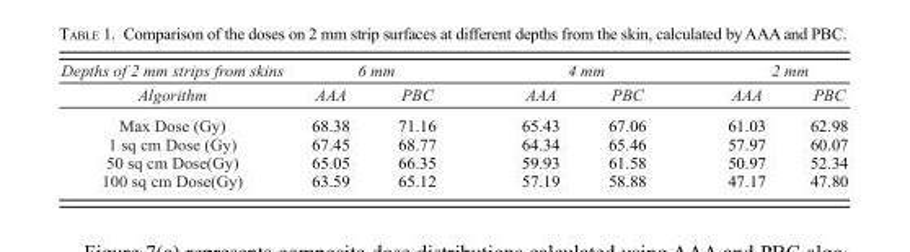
<table><thead><tr><td rowspan="2">Depths of 2 mm strips from skins Algorithm</td><td colspan="2">6 mm</td><td colspan="2">4 mm</td><td colspan="2">2 mm</td></tr><tr><td>AAA</td><td>PBC</td><td>AAA</td><td>PBC</td><td>AAA</td><td>PBC</td></tr></thead><tbody><tr><td>Max Dose (Gy)</td><td>68.38</td><td>71.16</td><td>65.43</td><td>67.06</td><td>61.03</td><td>62.98</td></tr><tr><td>1 sq cm Dose (Gy)</td><td>67.45</td><td>68.77</td><td>64.34</td><td>65.46</td><td>57.97</td><td>60.07</td></tr><tr><td>50 sq cm Dose(Gy)</td><td>65.05</td><td>66.35</td><td>59.93</td><td>61.58</td><td>50.97</td><td>52.34</td></tr><tr><td>100 sq cm Dose(Gy)</td><td>63.59</td><td>65.12</td><td>57.19</td><td>58.88</td><td>47.17</td><td>47.80</td></tr></tbody></table>